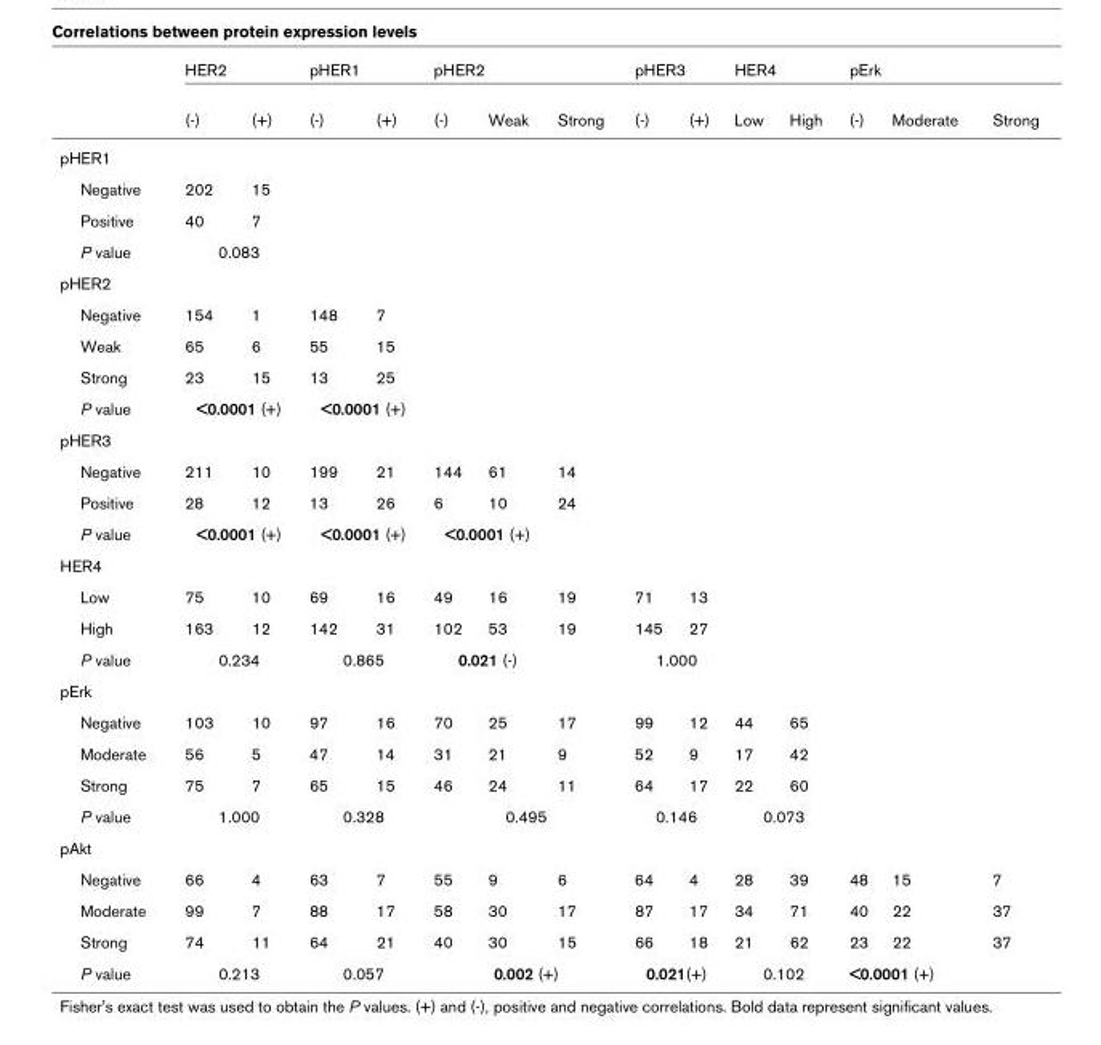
<table><thead><tr><td rowspan="2"></td><td colspan="2">HER2</td><td colspan="2">pHER1</td><td colspan="3">pHER2</td><td colspan="2">pHER3</td><td colspan="2">HER4</td><td colspan="3">pErk</td></tr><tr><td>(-)</td><td>(+)</td><td>(-)</td><td>(+)</td><td>(-)</td><td>Weak</td><td>Strong</td><td>(-)</td><td>(+)</td><td>Low</td><td>High</td><td>(-)</td><td>Moderate</td><td>Strong</td></tr></thead><tbody><tr><td colspan="15">pHER1</td></tr><tr><td>Negative</td><td>202</td><td>15</td><td></td><td></td><td></td><td></td><td></td><td></td><td></td><td></td><td></td><td></td><td></td><td></td></tr><tr><td>Positive</td><td>40</td><td>7</td><td></td><td></td><td></td><td></td><td></td><td></td><td></td><td></td><td></td><td></td><td></td><td></td></tr><tr><td>P value</td><td colspan="2">0.083</td><td></td><td></td><td></td><td></td><td></td><td></td><td></td><td></td><td></td><td></td><td></td><td></td></tr><tr><td colspan="15">pHER2</td></tr><tr><td>Negative</td><td>154</td><td>1</td><td>148</td><td>7</td><td></td><td></td><td></td><td></td><td></td><td></td><td></td><td></td><td></td><td></td></tr><tr><td>Weak</td><td>65</td><td>6</td><td>55</td><td>15</td><td></td><td></td><td></td><td></td><td></td><td></td><td></td><td></td><td></td><td></td></tr><tr><td>Strong</td><td>23</td><td>15</td><td>13</td><td>25</td><td></td><td></td><td></td><td></td><td></td><td></td><td></td><td></td><td></td><td></td></tr><tr><td>P value</td><td colspan="2">&lt;0.0001 (+)</td><td colspan="2">&lt;0.0001 (+)</td><td></td><td></td><td></td><td></td><td></td><td></td><td></td><td></td><td></td><td></td></tr><tr><td colspan="15">pHER3</td></tr><tr><td>Negative</td><td>211</td><td>10</td><td>199</td><td>21</td><td>144</td><td>61</td><td>14</td><td></td><td></td><td></td><td></td><td></td><td></td><td></td></tr><tr><td>Positive</td><td>28</td><td>12</td><td>13</td><td>26</td><td>6</td><td>10</td><td>24</td><td></td><td></td><td></td><td></td><td></td><td></td><td></td></tr><tr><td>P value</td><td colspan="2">&lt;0.0001 (+)</td><td colspan="2">&lt;0.0001 (+)</td><td colspan="2">&lt;0.0001 (+)</td><td></td><td></td><td></td><td></td><td></td><td></td><td></td><td></td></tr><tr><td colspan="15">HER4</td></tr><tr><td>Low</td><td>75</td><td>10</td><td>69</td><td>16</td><td>49</td><td>16</td><td>19</td><td>71</td><td>13</td><td></td><td></td><td></td><td></td><td></td></tr><tr><td>High</td><td>163</td><td>12</td><td>142</td><td>31</td><td>102</td><td>53</td><td>19</td><td>145</td><td>27</td><td></td><td></td><td></td><td></td><td></td></tr><tr><td>P value</td><td colspan="2">0.234</td><td colspan="2">0.865</td><td colspan="2">0.021 (-)</td><td></td><td colspan="2">1.000</td><td></td><td></td><td></td><td></td><td></td></tr><tr><td colspan="15">pErk</td></tr><tr><td>Negative</td><td>103</td><td>10</td><td>97</td><td>16</td><td>70</td><td>25</td><td>17</td><td>99</td><td>12</td><td>44</td><td>65</td><td></td><td></td><td></td></tr><tr><td>Moderate</td><td>56</td><td>5</td><td>47</td><td>14</td><td>31</td><td>21</td><td>9</td><td>52</td><td>9</td><td>17</td><td>42</td><td></td><td></td><td></td></tr><tr><td>Strong</td><td>75</td><td>7</td><td>65</td><td>15</td><td>46</td><td>24</td><td>11</td><td>64</td><td>17</td><td>22</td><td>60</td><td></td><td></td><td></td></tr><tr><td>P value</td><td colspan="2">1.000</td><td colspan="2">0.328</td><td colspan="3">0.495</td><td colspan="2">0.146</td><td colspan="2">0.073</td><td></td><td></td><td></td></tr><tr><td colspan="15">pAkt</td></tr><tr><td>Negative</td><td>66</td><td>4</td><td>63</td><td>7</td><td>55</td><td>9</td><td>6</td><td>64</td><td>4</td><td>28</td><td>39</td><td>48</td><td>15</td><td>7</td></tr><tr><td>Moderate</td><td>99</td><td>7</td><td>88</td><td>17</td><td>58</td><td>30</td><td>17</td><td>87</td><td>17</td><td>34</td><td>71</td><td>40</td><td>22</td><td>37</td></tr><tr><td>Strong</td><td>74</td><td>11</td><td>64</td><td>21</td><td>40</td><td>30</td><td>15</td><td>66</td><td>18</td><td>21</td><td>62</td><td>23</td><td>22</td><td>37</td></tr><tr><td>P value</td><td colspan="2">0.213</td><td colspan="2">0.057</td><td colspan="3">0.002 (+)</td><td colspan="2">0.021(+)</td><td colspan="2">0.102</td><td colspan="3">&lt;0.0001 (+)</td></tr></tbody></table>